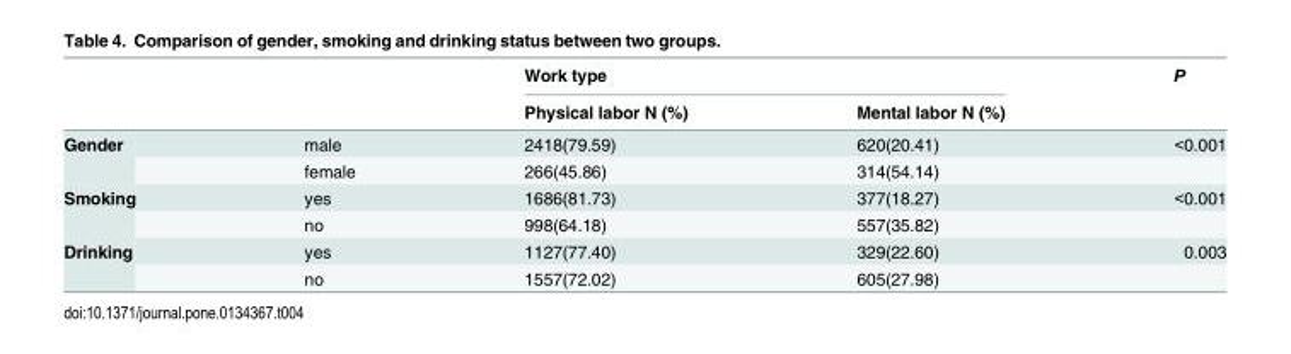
<table><thead><tr><td rowspan="2"></td><td rowspan="2"></td><td colspan="2">Work type</td><td rowspan="2">P</td></tr><tr><td>Physical labor N (%)</td><td>Mental labor N (%)</td></tr></thead><tbody><tr><td rowspan="2">Gender</td><td>male</td><td>2418(79.59)</td><td>620(20.41)</td><td>&lt;0.001</td></tr><tr><td>female</td><td>266(45.86)</td><td>314(54.14)</td><td></td></tr><tr><td rowspan="2">Smoking</td><td>yes</td><td>1686(81.73)</td><td>377(18.27)</td><td>&lt;0.001</td></tr><tr><td>no</td><td>998(64.18)</td><td>557(35.82)</td><td></td></tr><tr><td rowspan="2">Drinking</td><td>yes</td><td>1127(77.40)</td><td>329(22.60)</td><td>0.003</td></tr><tr><td>no</td><td>1557(72.02)</td><td>605(27.98)</td><td></td></tr></tbody></table>